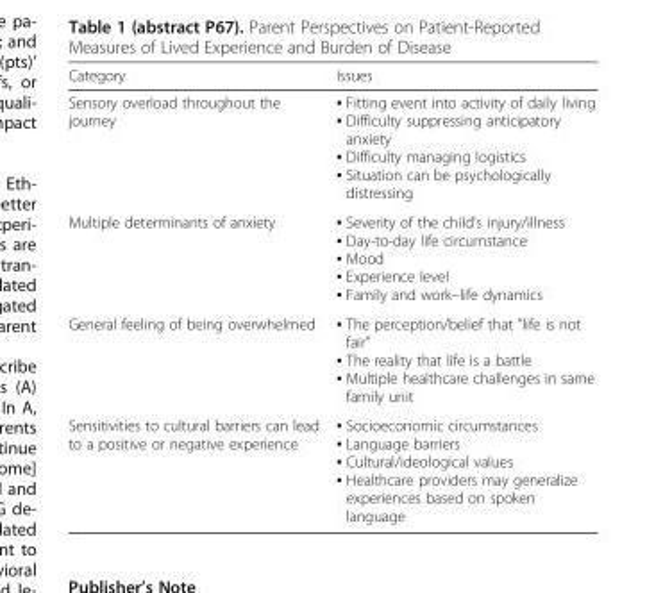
<table><thead><tr><td>Category</td><td>Issues</td></tr></thead><tbody><tr><td>Sensory overload throughout the journey</td><td>▪ Fitting event into activity of daily living ▪ Difficulty suppressing anticipatory anxiety ▪ Difficulty managing logistics ▪ Situation can be psychologically distressing</td></tr><tr><td>Multiple determinants of anxiety</td><td>▪ Severity of the child’s injury/illness ▪ Day-to-day life circumstance ▪ Mood ▪ Experience level ▪ Family and work–life dynamics</td></tr><tr><td>General feeling of being overwhelmed</td><td>▪ The perception/belief that ”life is not fair” ▪ The reality that life is a battle ▪ Multiple healthcare challenges in same family unit</td></tr><tr><td>Sensitivities to cultural barriers can lead to a positive or negative experience</td><td>▪ Socioeconomic circumstances ▪ Language barriers ▪ Cultural/ideological values ▪ Healthcare providers may generalize experiences based on spoken language</td></tr></tbody></table>